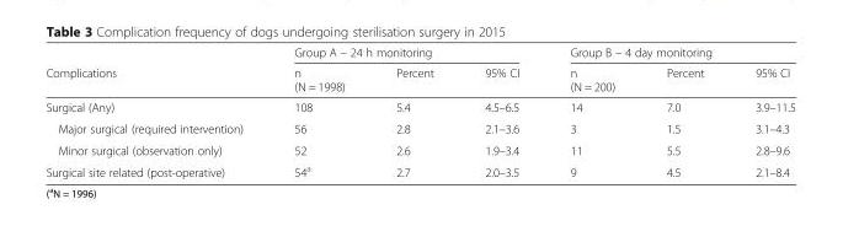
<table><thead><tr><td rowspan="2">Complications</td><td colspan="3">Group A – 24 h monitoring</td><td colspan="3">Group B – 4 day monitoring</td></tr><tr><td>n (N = 1998)</td><td>Percent</td><td>95% CI</td><td>n (N = 200)</td><td>Percent</td><td>95% CI</td></tr></thead><tbody><tr><td>Surgical (Any)</td><td>108</td><td>5.4</td><td>4.5–6.5</td><td>14</td><td>7.0</td><td>3.9–11.5</td></tr><tr><td>Major surgical (required intervention)</td><td>56</td><td>2.8</td><td>2.1–3.6</td><td>3</td><td>1.5</td><td>3.1–4.3</td></tr><tr><td>Minor surgical (observation only)</td><td>52</td><td>2.6</td><td>1.9–3.4</td><td>11</td><td>5.5</td><td>2.8–9.6</td></tr><tr><td>Surgical site related (post-operative)</td><td>54<sup>a</sup></td><td>2.7</td><td>2.0–3.5</td><td>9</td><td>4.5</td><td>2.1–8.4</td></tr></tbody></table>